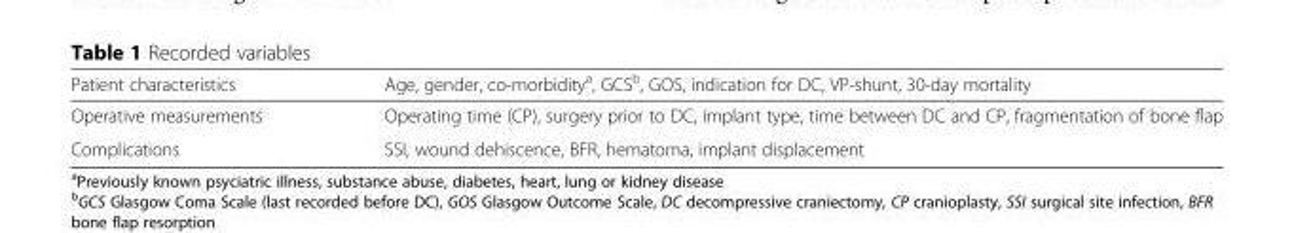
<table><thead><tr><td>Patient characteristics</td><td>Age, gender, co-morbidity<sup>a</sup>, GCS<sup>b</sup>, GOS, indication for DC, VP-shunt, 30-day mortality</td></tr></thead><tbody><tr><td>Operative measurements</td><td>Operating time (CP), surgery prior to DC, implant type, time between DC and CP, fragmentation of bone flap</td></tr><tr><td>Complications</td><td>SSI, wound dehiscence, BFR, hematoma, implant displacement</td></tr></tbody></table>